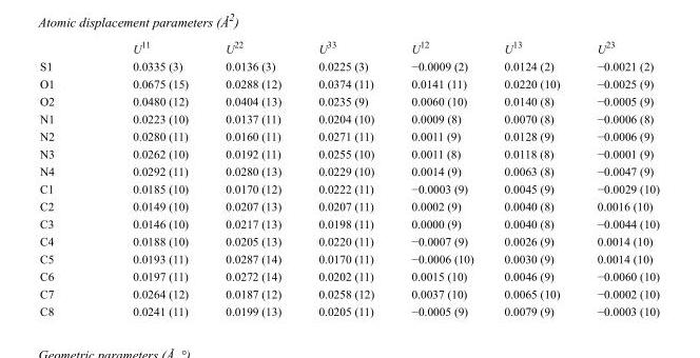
<table><thead><tr><td></td><td>U<sup>11</sup></td><td>U<sup>22</sup></td><td>U<sup>33</sup></td><td>U<sup>12</sup></td><td>U<sup>13</sup></td><td>U<sup>23</sup></td></tr></thead><tbody><tr><td>S1</td><td>0.0335 (3)</td><td>0.0136 (3)</td><td>0.0225 (3)</td><td>−0.0009 (2)</td><td>0.0124 (2)</td><td>−0.0021 (2)</td></tr><tr><td>O1</td><td>0.0675 (15)</td><td>0.0288 (12)</td><td>0.0374 (11)</td><td>0.0141 (11)</td><td>0.0220 (10)</td><td>−0.0025 (9)</td></tr><tr><td>O2</td><td>0.0480 (12)</td><td>0.0404 (13)</td><td>0.0235 (9)</td><td>0.0060 (10)</td><td>0.0140 (8)</td><td>−0.0005 (9)</td></tr><tr><td>N1</td><td>0.0223 (10)</td><td>0.0137 (11)</td><td>0.0204 (10)</td><td>0.0009 (8)</td><td>0.0070 (8)</td><td>−0.0006 (8)</td></tr><tr><td>N2</td><td>0.0280 (11)</td><td>0.0160 (11)</td><td>0.0271 (11)</td><td>0.0011 (9)</td><td>0.0128 (9)</td><td>−0.0006 (9)</td></tr><tr><td>N3</td><td>0.0262 (10)</td><td>0.0192 (11)</td><td>0.0255 (10)</td><td>0.0011 (8)</td><td>0.0118 (8)</td><td>−0.0001 (9)</td></tr><tr><td>N4</td><td>0.0292 (11)</td><td>0.0280 (13)</td><td>0.0229 (10)</td><td>0.0014 (9)</td><td>0.0063 (8)</td><td>−0.0047 (9)</td></tr><tr><td>C1</td><td>0.0185 (10)</td><td>0.0170 (12)</td><td>0.0222 (11)</td><td>−0.0003 (9)</td><td>0.0045 (9)</td><td>−0.0029 (10)</td></tr><tr><td>C2</td><td>0.0149 (10)</td><td>0.0207 (13)</td><td>0.0207 (11)</td><td>0.0002 (9)</td><td>0.0040 (8)</td><td>0.0016 (10)</td></tr><tr><td>C3</td><td>0.0146 (10)</td><td>0.0217 (13)</td><td>0.0198 (11)</td><td>0.0000 (9)</td><td>0.0040 (8)</td><td>−0.0044 (10)</td></tr><tr><td>C4</td><td>0.0188 (10)</td><td>0.0205 (13)</td><td>0.0220 (11)</td><td>−0.0007 (9)</td><td>0.0026 (9)</td><td>0.0014 (10)</td></tr><tr><td>C5</td><td>0.0193 (11)</td><td>0.0287 (14)</td><td>0.0170 (11)</td><td>−0.0006 (10)</td><td>0.0030 (9)</td><td>0.0014 (10)</td></tr><tr><td>C6</td><td>0.0197 (11)</td><td>0.0272 (14)</td><td>0.0202 (11)</td><td>0.0015 (10)</td><td>0.0046 (9)</td><td>−0.0060 (10)</td></tr><tr><td>C7</td><td>0.0264 (12)</td><td>0.0187 (12)</td><td>0.0258 (12)</td><td>0.0037 (10)</td><td>0.0065 (10)</td><td>−0.0002 (10)</td></tr><tr><td>C8</td><td>0.0241 (11)</td><td>0.0199 (13)</td><td>0.0205 (11)</td><td>−0.0005 (9)</td><td>0.0079 (9)</td><td>−0.0003 (10)</td></tr></tbody></table>